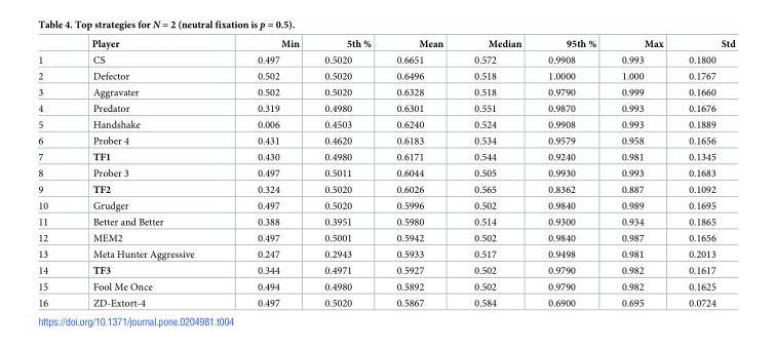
<table><thead><tr><td></td><td>Player</td><td>Min</td><td>5th %</td><td>Mean</td><td>Median</td><td>95th %</td><td>Max</td><td>Std</td></tr></thead><tbody><tr><td>1</td><td>CS</td><td>0.497</td><td>0.5020</td><td>0.6651</td><td>0.572</td><td>0.9908</td><td>0.993</td><td>0.1800</td></tr><tr><td>2</td><td>Defector</td><td>0.502</td><td>0.5020</td><td>0.6496</td><td>0.518</td><td>1.0000</td><td>1.000</td><td>0.1767</td></tr><tr><td>3</td><td>Aggravater</td><td>0.502</td><td>0.5020</td><td>0.6328</td><td>0.518</td><td>0.9790</td><td>0.999</td><td>0.1660</td></tr><tr><td>4</td><td>Predator</td><td>0.319</td><td>0.4980</td><td>0.6301</td><td>0.551</td><td>0.9870</td><td>0.993</td><td>0.1676</td></tr><tr><td>5</td><td>Handshake</td><td>0.006</td><td>0.4503</td><td>0.6240</td><td>0.524</td><td>0.9908</td><td>0.993</td><td>0.1889</td></tr><tr><td>6</td><td>Prober 4</td><td>0.431</td><td>0.4620</td><td>0.6183</td><td>0.534</td><td>0.9579</td><td>0.958</td><td>0.1656</td></tr><tr><td>7</td><td>TF1</td><td>0.430</td><td>0.4980</td><td>0.6171</td><td>0.544</td><td>0.9240</td><td>0.981</td><td>0.1345</td></tr><tr><td>8</td><td>Prober 3</td><td>0.497</td><td>0.5011</td><td>0.6044</td><td>0.505</td><td>0.9930</td><td>0.993</td><td>0.1683</td></tr><tr><td>9</td><td>TF2</td><td>0.324</td><td>0.5020</td><td>0.6026</td><td>0.565</td><td>0.8362</td><td>0.887</td><td>0.1092</td></tr><tr><td>10</td><td>Grudger</td><td>0.497</td><td>0.5020</td><td>0.5996</td><td>0.502</td><td>0.9840</td><td>0.989</td><td>0.1695</td></tr><tr><td>11</td><td>Better and Better</td><td>0.388</td><td>0.3951</td><td>0.5980</td><td>0.514</td><td>0.9300</td><td>0.934</td><td>0.1865</td></tr><tr><td>12</td><td>MEM2</td><td>0.497</td><td>0.5001</td><td>0.5942</td><td>0.502</td><td>0.9840</td><td>0.987</td><td>0.1656</td></tr><tr><td>13</td><td>Meta Hunter Aggressive</td><td>0.247</td><td>0.2943</td><td>0.5933</td><td>0.517</td><td>0.9498</td><td>0.981</td><td>0.2013</td></tr><tr><td>14</td><td>TF3</td><td>0.344</td><td>0.4971</td><td>0.5927</td><td>0.502</td><td>0.9790</td><td>0.982</td><td>0.1617</td></tr><tr><td>15</td><td>Fool Me Once</td><td>0.494</td><td>0.4980</td><td>0.5892</td><td>0.502</td><td>0.9790</td><td>0.982</td><td>0.1625</td></tr><tr><td>16</td><td>ZD-Extort-4</td><td>0.497</td><td>0.5020</td><td>0.5867</td><td>0.584</td><td>0.6900</td><td>0.695</td><td>0.0724</td></tr></tbody></table>